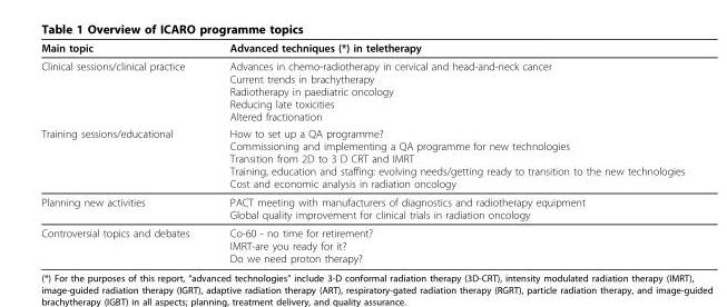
<table><thead><tr><td>Main topic</td><td>Advanced techniques (*) in teletherapy</td></tr></thead><tbody><tr><td>Clinical sessions/clinical practice</td><td>Advances in chemo-radiotherapy in cervical and head-and-neck cancer Current trends in brachytherapy Radiotherapy in paediatric oncology Reducing late toxicities Altered fractionation</td></tr><tr><td>Training sessions/educational</td><td>How to set up a QA programme? Commissioning and implementing a QA programme for new technologies Transition from 2D to 3 D CRT and IMRT Training, education and staffing: evolving needs/getting ready to transition to the new technologies Cost and economic analysis in radiation oncology</td></tr><tr><td>Planning new activities</td><td>PACT meeting with manufacturers of diagnostics and radiotherapy equipment Global quality improvement for clinical trials in radiation oncology</td></tr><tr><td>Controversial topics and debates</td><td>Co-60 - no time for retirement? IMRT-are you ready for it? Do we need proton therapy?</td></tr></tbody></table>